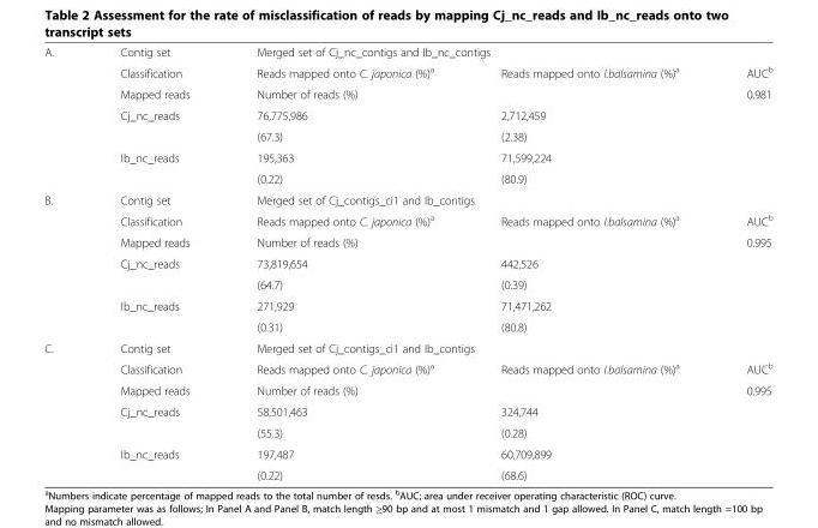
<table><tbody><tr><td rowspan="7">A.</td><td>Contig set</td><td colspan="3">Merged set of Cj_nc_contigs and Ib_nc_contigs</td></tr><tr><td>Classification</td><td>Reads mapped onto C. japonica (%)<sup>a</sup></td><td>Reads mapped onto I.balsamina (%)<sup>a</sup></td><td>AUC<sup>b</sup></td></tr><tr><td>Mapped reads</td><td colspan="2">Number of reads (%)</td><td rowspan="5">0.981</td></tr><tr><td rowspan="2">Cj_nc_reads</td><td>76,775,986</td><td>2,712,459</td></tr><tr><td>(67.3)</td><td>(2.38)</td></tr><tr><td rowspan="2">Ib_nc_reads</td><td>195,363</td><td>71,599,224</td></tr><tr><td>(0.22)</td><td>(80.9)</td></tr><tr><td rowspan="7">B.</td><td>Contig set</td><td colspan="3">Merged set of Cj_contigs_ci1 and Ib_contigs</td></tr><tr><td>Classification</td><td>Reads mapped onto C. japonica (%)<sup>a</sup></td><td>Reads mapped onto I.balsamina (%)<sup>a</sup></td><td>AUC<sup>b</sup></td></tr><tr><td>Mapped reads</td><td colspan="2">Number of reads (%)</td><td rowspan="5">0.995</td></tr><tr><td rowspan="2">Cj_nc_reads</td><td>73,819,654</td><td>442,526</td></tr><tr><td>(64.7)</td><td>(0.39)</td></tr><tr><td rowspan="2">Ib_nc_reads</td><td>271,929</td><td>71,471,262</td></tr><tr><td>(0.31)</td><td>(80.8)</td></tr><tr><td rowspan="7">C.</td><td>Contig set</td><td colspan="3">Merged set of Cj_contigs_ci1 and Ib_contigs</td></tr><tr><td>Classification</td><td>Reads mapped onto C. japonica (%)<sup>a</sup></td><td>Reads mapped onto I.balsamina (%)<sup>a</sup></td><td>AUC<sup>b</sup></td></tr><tr><td>Mapped reads</td><td colspan="2">Number of reads (%)</td><td rowspan="5">0.995</td></tr><tr><td rowspan="2">Cj_nc_reads</td><td>58,501,463</td><td>324,744</td></tr><tr><td>(55.3)</td><td>(0.28)</td></tr><tr><td rowspan="2">Ib_nc_reads</td><td>197,487</td><td>60,709,899</td></tr><tr><td>(0.22)</td><td>(68.6)</td></tr></tbody></table>